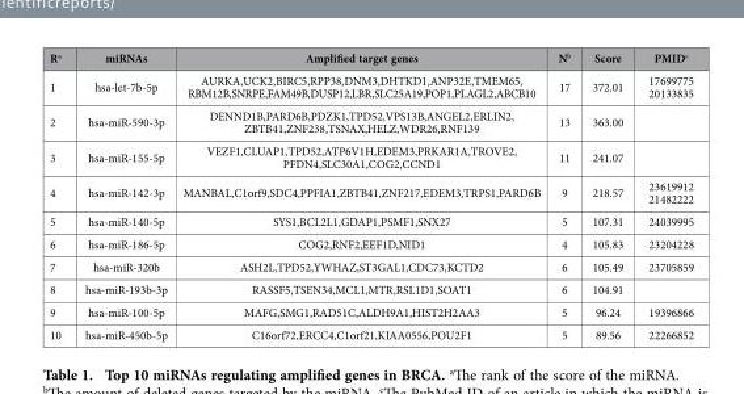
<table><thead><tr><td>R<sup>a</sup></td><td>miRNAs</td><td>Amplified target genes</td><td>N<sup>b</sup></td><td>Score</td><td>PMID<sup>c</sup></td></tr></thead><tbody><tr><td>1</td><td>hsa-let-7b-5p</td><td>AURKA,UCK2,BIRC5,RPP38,DNM3,DHTKD1,ANP32E,TMEM65, RBM12B,SNRPE,FAM49B,DUSP12,LBR,SLC25A19,POP1,PLAGL2,ABCB10</td><td>17</td><td>372.01</td><td>17699775 20133835</td></tr><tr><td>2</td><td>hsa-miR-590-3p</td><td>DENND1B,PARD6B,PDZK1,TPD52,VPS13B,ANGEL2,ERLIN2, ZBTB41,ZNF238,TSNAX,HELZ,WDR26,RNF139</td><td>13</td><td>363.00</td><td></td></tr><tr><td>3</td><td>hsa-miR-155-5p</td><td>VEZF1,CLUAP1,TPD52,ATP6V1H,EDEM3,PRKAR1A,TROVE2, PFDN4,SLC30A1,COG2,CCND1</td><td>11</td><td>241.07</td><td></td></tr><tr><td>4</td><td>hsa-miR-142-3p</td><td>MANBAL,C1orf9,SDC4,PPFIA1,ZBTB41,ZNF217,EDEM3,TRPS1,PARD6B</td><td>9</td><td>218.57</td><td>23619912 21482222</td></tr><tr><td>5</td><td>hsa-miR-140-5p</td><td>SYS1,BCL2L1,GDAP1,PSMF1,SNX27</td><td>5</td><td>107.31</td><td>24039995</td></tr><tr><td>6</td><td>hsa-miR-186-5p</td><td>COG2,RNF2,EEF1D,NID1</td><td>4</td><td>105.83</td><td>23204228</td></tr><tr><td>7</td><td>hsa-miR-320b</td><td>ASH2L,TPD52,YWHAZ,ST3GAL1,CDC73,KCTD2</td><td>6</td><td>105.49</td><td>23705859</td></tr><tr><td>8</td><td>hsa-miR-193b-3p</td><td>RASSF5,TSEN34,MCL1,MTR,RSL1D1,SOAT1</td><td>6</td><td>104.91</td><td></td></tr><tr><td>9</td><td>hsa-miR-100-5p</td><td>MAFG,SMG1,RAD51C,ALDH9A1,HIST2H2AA3</td><td>5</td><td>96.24</td><td>19396866</td></tr><tr><td>10</td><td>hsa-miR-450b-5p</td><td>C16orf72,ERCC4,C1orf21,KIAA0556,POU2F1</td><td>5</td><td>89.56</td><td>22266852</td></tr></tbody></table>